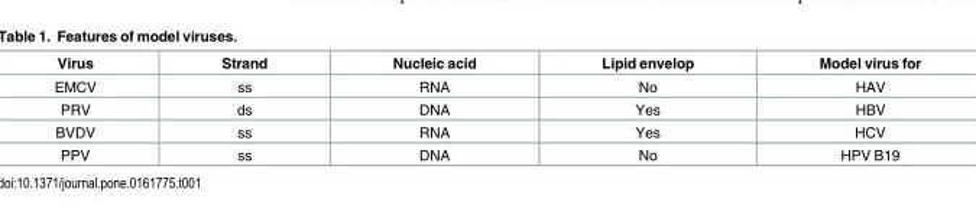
<table><thead><tr><td>Virus</td><td>Strand</td><td>Nucleic acid</td><td>Lipid envelop</td><td>Model virus for</td></tr></thead><tbody><tr><td>EMCV</td><td>ss</td><td>RNA</td><td>No</td><td>HAV</td></tr><tr><td>PRV</td><td>ds</td><td>DNA</td><td>Yes</td><td>HBV</td></tr><tr><td>BVDV</td><td>ss</td><td>RNA</td><td>Yes</td><td>HCV</td></tr><tr><td>PPV</td><td>ss</td><td>DNA</td><td>No</td><td>HPV B19</td></tr></tbody></table>